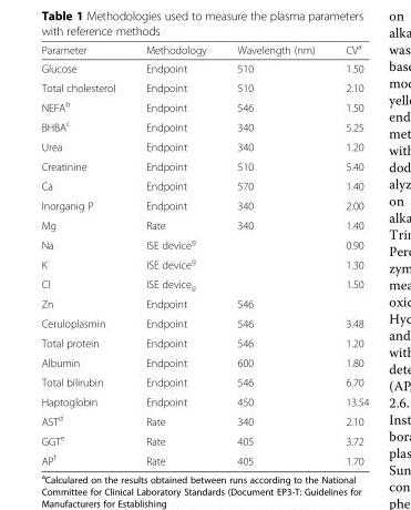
<table><thead><tr><td>Parameter</td><td>Methodology</td><td>Wavelength (nm)</td><td>CV<sup>a</sup></td></tr></thead><tbody><tr><td>Glucose</td><td>Endpoint</td><td>510</td><td>1.50</td></tr><tr><td>Total cholesterol</td><td>Endpoint</td><td>510</td><td>2.10</td></tr><tr><td>NEFA<sup>b</sup></td><td>Endpoint</td><td>546</td><td>1.50</td></tr><tr><td>BHBA<sup>c</sup></td><td>Endpoint</td><td>340</td><td>5.25</td></tr><tr><td>Urea</td><td>Endpoint</td><td>340</td><td>1.20</td></tr><tr><td>Creatinine</td><td>Endpoint</td><td>510</td><td>5.40</td></tr><tr><td>Ca</td><td>Endpoint</td><td>570</td><td>1.40</td></tr><tr><td>Inorganig P</td><td>Endpoint</td><td>340</td><td>2.00</td></tr><tr><td>Mg</td><td>Rate</td><td>340</td><td>1.40</td></tr><tr><td>Na</td><td>ISE device<sup>g</sup></td><td></td><td>0.90</td></tr><tr><td>K</td><td>ISE device<sup>g</sup></td><td></td><td>1.30</td></tr><tr><td>Cl</td><td>ISE device<sub>g</sub></td><td></td><td>1.50</td></tr><tr><td>Zn</td><td>Endpoint</td><td>546</td><td></td></tr><tr><td>Ceruloplasmin</td><td>Endpoint</td><td>546</td><td>3.48</td></tr><tr><td>Total protein</td><td>Endpoint</td><td>546</td><td>1.20</td></tr><tr><td>Albumin</td><td>Endpoint</td><td>600</td><td>1.80</td></tr><tr><td>Total bilirubin</td><td>Endpoint</td><td>546</td><td>6.70</td></tr><tr><td>Haptoglobin</td><td>Endpoint</td><td>450</td><td>13.54</td></tr><tr><td>AST<sup>d</sup></td><td>Rate</td><td>340</td><td>2.10</td></tr><tr><td>GGT<sup>e</sup></td><td>Rate</td><td>405</td><td>3.72</td></tr><tr><td>AP<sup>f</sup></td><td>Rate</td><td>405</td><td>1.70</td></tr></tbody></table>